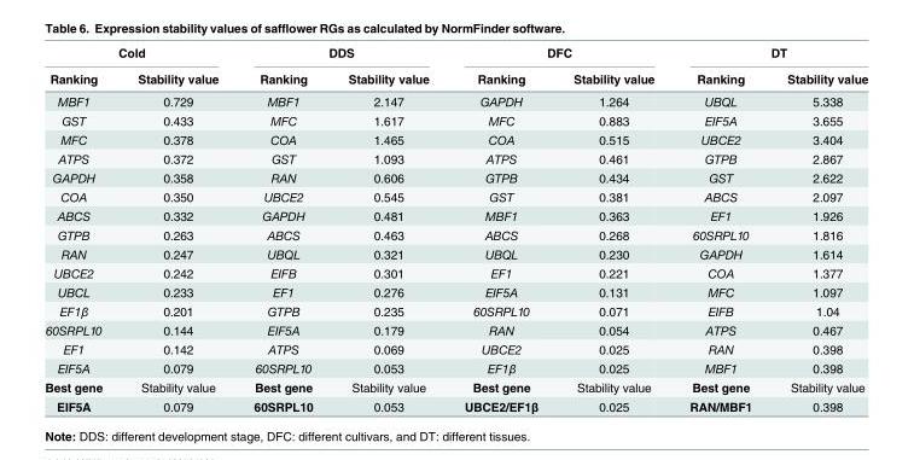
<table><thead><tr><td colspan="2">Cold</td><td colspan="2">DDS</td><td colspan="2">DFC</td><td colspan="2">DT</td></tr><tr><td>Ranking</td><td>Stability value</td><td>Ranking</td><td>Stability value</td><td>Ranking</td><td>Stability value</td><td>Ranking</td><td>Stability value</td></tr></thead><tbody><tr><td>MBF1</td><td>0.729</td><td>MBF1</td><td>2.147</td><td>GAPDH</td><td>1.264</td><td>UBQL</td><td>5.338</td></tr><tr><td>GST</td><td>0.433</td><td>MFC</td><td>1.617</td><td>MFC</td><td>0.883</td><td>EIF5A</td><td>3.655</td></tr><tr><td>MFC</td><td>0.378</td><td>COA</td><td>1.465</td><td>COA</td><td>0.515</td><td>UBCE2</td><td>3.404</td></tr><tr><td>ATPS</td><td>0.372</td><td>GST</td><td>1.093</td><td>ATPS</td><td>0.461</td><td>GTPB</td><td>2.867</td></tr><tr><td>GAPDH</td><td>0.358</td><td>RAN</td><td>0.606</td><td>GTPB</td><td>0.434</td><td>GST</td><td>2.622</td></tr><tr><td>COA</td><td>0.350</td><td>UBCE2</td><td>0.545</td><td>GST</td><td>0.381</td><td>ABCS</td><td>2.097</td></tr><tr><td>ABCS</td><td>0.332</td><td>GAPDH</td><td>0.481</td><td>MBF1</td><td>0.363</td><td>EF1</td><td>1.926</td></tr><tr><td>GTPB</td><td>0.263</td><td>ABCS</td><td>0.463</td><td>ABCS</td><td>0.268</td><td>60SRPL10</td><td>1.816</td></tr><tr><td>RAN</td><td>0.247</td><td>UBQL</td><td>0.321</td><td>UBQL</td><td>0.230</td><td>GAPDH</td><td>1.614</td></tr><tr><td>UBCE2</td><td>0.242</td><td>EIFB</td><td>0.301</td><td>EF1</td><td>0.221</td><td>COA</td><td>1.377</td></tr><tr><td>UBCL</td><td>0.233</td><td>EF1</td><td>0.276</td><td>EIF5A</td><td>0.131</td><td>MFC</td><td>1.097</td></tr><tr><td>EF1β</td><td>0.201</td><td>GTPB</td><td>0.235</td><td>60SRPL10</td><td>0.071</td><td>EIFB</td><td>1.04</td></tr><tr><td>60SRPL10</td><td>0.144</td><td>EIF5A</td><td>0.179</td><td>RAN</td><td>0.054</td><td>ATPS</td><td>0.467</td></tr><tr><td>EF1</td><td>0.142</td><td>ATPS</td><td>0.069</td><td>UBCE2</td><td>0.025</td><td>RAN</td><td>0.398</td></tr><tr><td>EIF5A</td><td>0.079</td><td>60SRPL10</td><td>0.053</td><td>EF1β</td><td>0.025</td><td>MBF1</td><td>0.398</td></tr><tr><td>Best gene</td><td>Stability value</td><td>Best gene</td><td>Stability value</td><td>Best gene</td><td>Stability value</td><td>Best gene</td><td>Stability value</td></tr><tr><td>EIF5A</td><td>0.079</td><td>60SRPL10</td><td>0.053</td><td>UBCE2/EF1β</td><td>0.025</td><td>RAN/MBF1</td><td>0.398</td></tr></tbody></table>